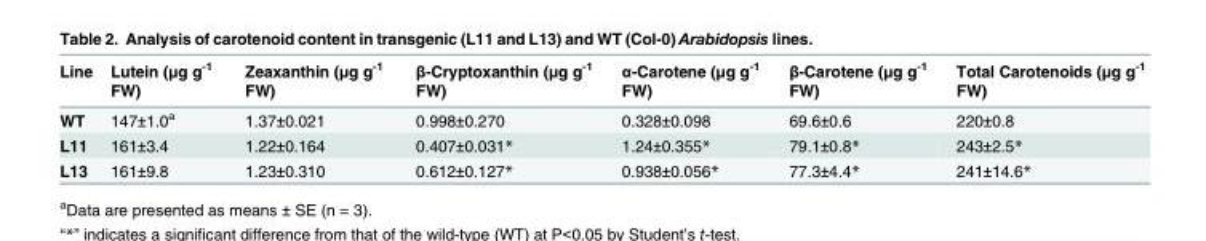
<table><thead><tr><td>Line</td><td>Lutein (μg g<sup>-1</sup> FW)</td><td>Zeaxanthin (μg g<sup>-1</sup> FW)</td><td>β-Cryptoxanthin (μg g<sup>-1</sup> FW)</td><td>α-Carotene (μg g<sup>-1</sup> FW)</td><td>β-Carotene (μg g<sup>-1</sup> FW)</td><td>Total Carotenoids (μg g<sup>-1</sup> FW)</td></tr></thead><tbody><tr><td>WT</td><td>147±1.0<sup>a</sup></td><td>1.37±0.021</td><td>0.998±0.270</td><td>0.328±0.098</td><td>69.6±0.6</td><td>220±0.8</td></tr><tr><td>L11</td><td>161±3.4</td><td>1.22±0.164</td><td>0.407±0.031*</td><td>1.24±0.355*</td><td>79.1±0.8*</td><td>243±2.5*</td></tr><tr><td>L13</td><td>161±9.8</td><td>1.23±0.310</td><td>0.612±0.127*</td><td>0.938±0.056*</td><td>77.3±4.4*</td><td>241±14.6*</td></tr></tbody></table>